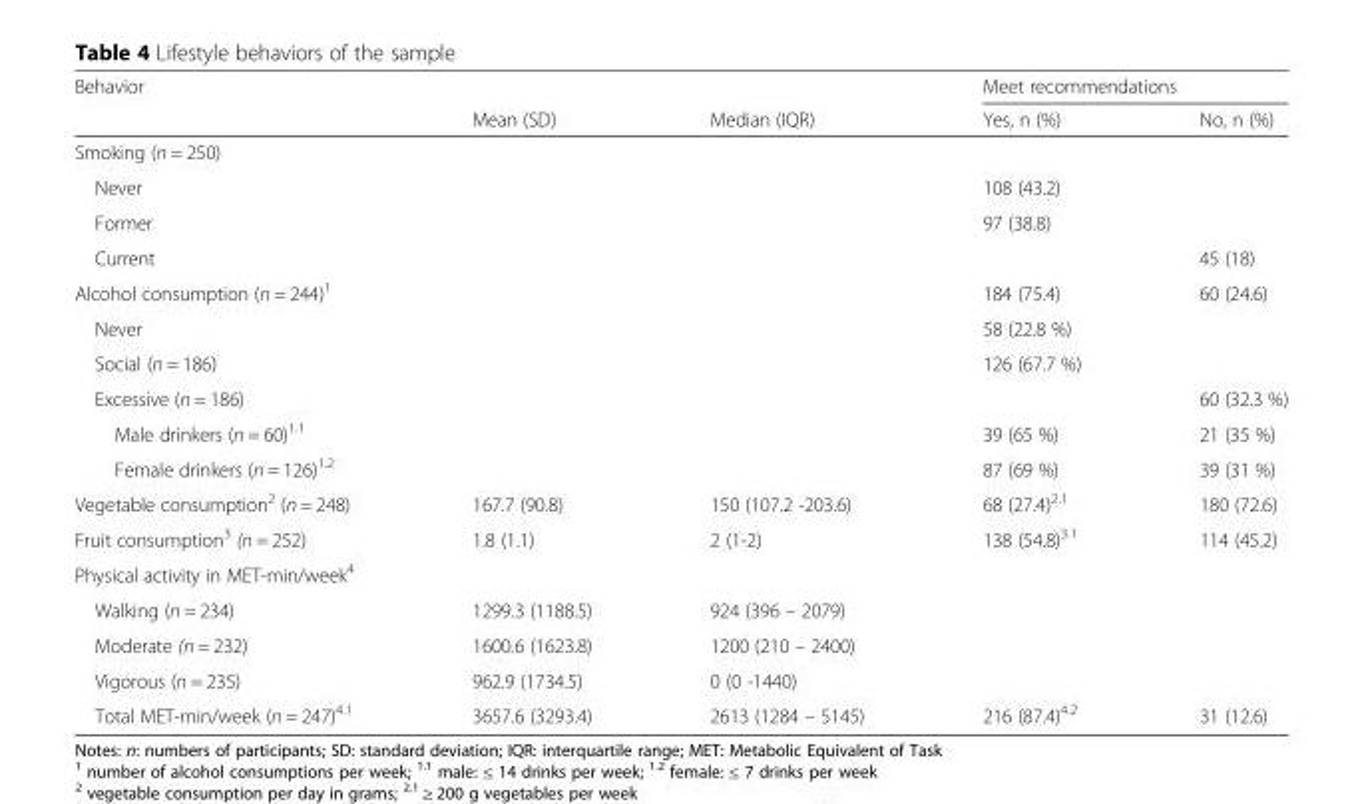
<table><thead><tr><td rowspan="2">Behavior</td><td rowspan="2">Mean (SD)</td><td rowspan="2">Median (IQR)</td><td colspan="2">Meet recommendations</td></tr><tr><td>Yes, n (%)</td><td>No, n (%)</td></tr></thead><tbody><tr><td colspan="5">Smoking (n = 250)</td></tr><tr><td>Never</td><td></td><td></td><td>108 (43.2)</td><td></td></tr><tr><td>Former</td><td></td><td></td><td>97 (38.8)</td><td></td></tr><tr><td>Current</td><td></td><td></td><td></td><td>45 (18)</td></tr><tr><td>Alcohol consumption (n = 244)<sup>1</sup></td><td></td><td></td><td>184 (75.4)</td><td>60 (24.6)</td></tr><tr><td>Never</td><td></td><td></td><td>58 (22.8 %)</td><td></td></tr><tr><td>Social (n = 186)</td><td></td><td></td><td>126 (67.7 %)</td><td></td></tr><tr><td>Excessive (n = 186)</td><td></td><td></td><td></td><td>60 (32.3 %)</td></tr><tr><td>Male drinkers (n = 60)<sup>1.1</sup></td><td></td><td></td><td>39 (65 %)</td><td>21 (35 %)</td></tr><tr><td>Female drinkers (n = 126)<sup>1.2</sup></td><td></td><td></td><td>87 (69 %)</td><td>39 (31 %)</td></tr><tr><td>Vegetable consumption<sup>2</sup> (n = 248)</td><td>167.7 (90.8)</td><td>150 (107.2 -203.6)</td><td>68 (27.4)<sup>2.1</sup></td><td>180 (72.6)</td></tr><tr><td>Fruit consumption<sup>3</sup> (n = 252)</td><td>1.8 (1.1)</td><td>2 (1-2)</td><td>138 (54.8)<sup>3.1</sup></td><td>114 (45.2)</td></tr><tr><td colspan="5">Physical activity in MET-min/week<sup>4</sup></td></tr><tr><td>Walking (n = 234)</td><td>1299.3 (1188.5)</td><td>924 (396 – 2079)</td><td></td><td></td></tr><tr><td>Moderate (n = 232)</td><td>1600.6 (1623.8)</td><td>1200 (210 – 2400)</td><td></td><td></td></tr><tr><td>Vigorous (n = 235)</td><td>962.9 (1734.5)</td><td>0 (0 -1440)</td><td></td><td></td></tr><tr><td>Total MET-min/week (n = 247)<sup>4.1</sup></td><td>3657.6 (3293.4)</td><td>2613 (1284 – 5145)</td><td>216 (87.4)<sup>4.2</sup></td><td>31 (12.6)</td></tr></tbody></table>